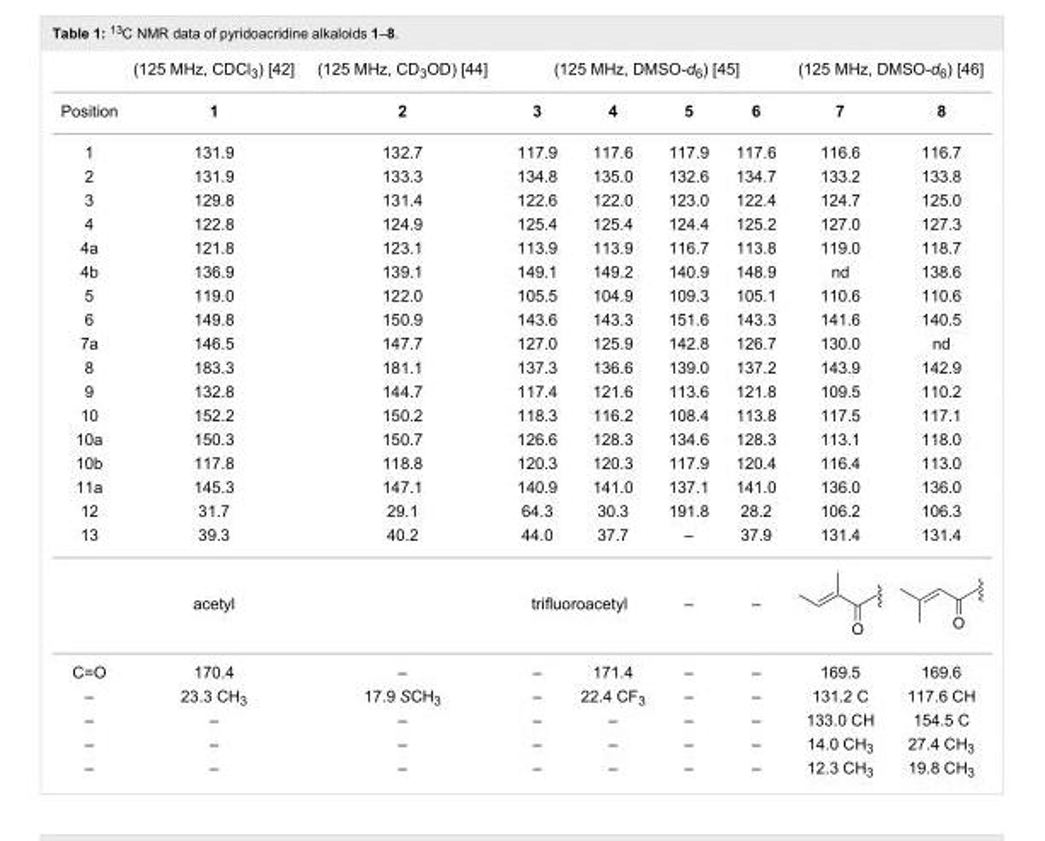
<table><thead><tr><td rowspan="2">Position</td><td rowspan="2">(125 MHz, CDCl3) [42] 1</td><td rowspan="2">(125 MHz, CD3OD) [44] 2</td><td colspan="4">(125 MHz, DMSO-d6) [45]</td><td colspan="2">(125 MHz, DMSO-d6) [46]</td></tr><tr><td>3</td><td>4</td><td>5</td><td>6</td><td>7</td><td>8</td></tr></thead><tbody><tr><td>1</td><td>131.9</td><td>132.7</td><td>117.9</td><td>117.6</td><td>117.9</td><td>117.6</td><td>116.6</td><td>116.7</td></tr><tr><td>2</td><td>131.9</td><td>133.3</td><td>134.8</td><td>135.0</td><td>132.6</td><td>134.7</td><td>133.2</td><td>133.8</td></tr><tr><td>3</td><td>129.8</td><td>131.4</td><td>122.6</td><td>122.0</td><td>123.0</td><td>122.4</td><td>124.7</td><td>125.0</td></tr><tr><td>4</td><td>122.8</td><td>124.9</td><td>125.4</td><td>125.4</td><td>124.4</td><td>125.2</td><td>127.0</td><td>127.3</td></tr><tr><td>4a</td><td>121.8</td><td>123.1</td><td>113.9</td><td>113.9</td><td>116.7</td><td>113.8</td><td>119.0</td><td>118.7</td></tr><tr><td>4b</td><td>136.9</td><td>139.1</td><td>149.1</td><td>149.2</td><td>140.9</td><td>148.9</td><td>nd</td><td>138.6</td></tr><tr><td>5</td><td>119.0</td><td>122.0</td><td>105.5</td><td>104.9</td><td>109.3</td><td>105.1</td><td>110.6</td><td>110.6</td></tr><tr><td>6</td><td>149.8</td><td>150.9</td><td>143.6</td><td>143.3</td><td>151.6</td><td>143.3</td><td>141.6</td><td>140.5</td></tr><tr><td>7a</td><td>146.5</td><td>147.7</td><td>127.0</td><td>125.9</td><td>142.8</td><td>126.7</td><td>130.0</td><td>nd</td></tr><tr><td>8</td><td>183.3</td><td>181.1</td><td>137.3</td><td>136.6</td><td>139.0</td><td>137.2</td><td>143.9</td><td>142.9</td></tr><tr><td>9</td><td>132.8</td><td>144.7</td><td>117.4</td><td>121.6</td><td>113.6</td><td>121.8</td><td>109.5</td><td>110.2</td></tr><tr><td>10</td><td>152.2</td><td>150.2</td><td>118.3</td><td>116.2</td><td>108.4</td><td>113.8</td><td>117.5</td><td>117.1</td></tr><tr><td>10a</td><td>150.3</td><td>150.7</td><td>126.6</td><td>128.3</td><td>134.6</td><td>128.3</td><td>113.1</td><td>118.0</td></tr><tr><td>10b</td><td>117.8</td><td>118.8</td><td>120.3</td><td>120.3</td><td>117.9</td><td>120.4</td><td>116.4</td><td>113.0</td></tr><tr><td>11a</td><td>145.3</td><td>147.1</td><td>140.9</td><td>141.0</td><td>137.1</td><td>141.0</td><td>136.0</td><td>136.0</td></tr><tr><td>12</td><td>31.7</td><td>29.1</td><td>64.3</td><td>30.3</td><td>191.8</td><td>28.2</td><td>106.2</td><td>106.3</td></tr><tr><td rowspan="2">13</td><td>39.3</td><td>40.2</td><td>44.0</td><td>37.7</td><td>–</td><td>37.9</td><td>131.4</td><td>131.4</td></tr><tr><td>acetyl</td><td></td><td colspan="2">trifluoroacetyl</td><td>–</td><td>–</td><td></td><td></td></tr><tr><td>C=O</td><td>170.4</td><td>–</td><td>–</td><td>171.4</td><td>–</td><td>–</td><td>169.5</td><td>169.6</td></tr><tr><td>–</td><td>23.3 CH3</td><td>17.9 SCH3</td><td>–</td><td>22.4 CF3</td><td>–</td><td>–</td><td>131.2 C</td><td>117.6 CH</td></tr><tr><td>–</td><td>–</td><td>–</td><td>–</td><td>–</td><td>–</td><td>–</td><td>133.0 CH</td><td>154.5 C</td></tr><tr><td>–</td><td>–</td><td>–</td><td>–</td><td>–</td><td>–</td><td>–</td><td>14.0 CH3</td><td>27.4 CH3</td></tr><tr><td>–</td><td>–</td><td>–</td><td>–</td><td>–</td><td>–</td><td>–</td><td>12.3 CH3</td><td>19.8 CH3</td></tr></tbody></table>